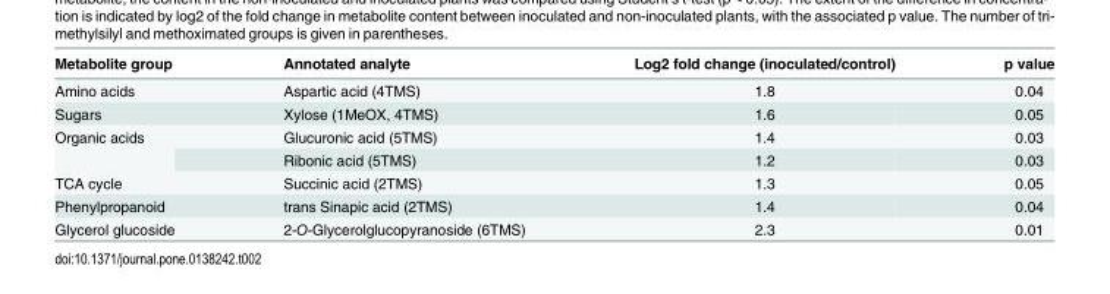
<table><thead><tr><td>Metabolite group</td><td>Annotated analyte</td><td>Log2 fold change (inoculated/control)</td><td>p value</td></tr></thead><tbody><tr><td>Amino acids</td><td>Aspartic acid (4TMS)</td><td>1.8</td><td>0.04</td></tr><tr><td>Sugars</td><td>Xylose (1MeOX, 4TMS)</td><td>1.6</td><td>0.05</td></tr><tr><td rowspan="2">Organic acids</td><td>Glucuronic acid (5TMS)</td><td>1.4</td><td>0.03</td></tr><tr><td>Ribonic acid (5TMS)</td><td>1.2</td><td>0.03</td></tr><tr><td>TCA cycle</td><td>Succinic acid (2TMS)</td><td>1.3</td><td>0.05</td></tr><tr><td>Phenylpropanoid</td><td>trans Sinapic acid (2TMS)</td><td>1.4</td><td>0.04</td></tr><tr><td>Glycerol glucoside</td><td>2-O-Glycerolglucopyranoside (6TMS)</td><td>2.3</td><td>0.01</td></tr></tbody></table>